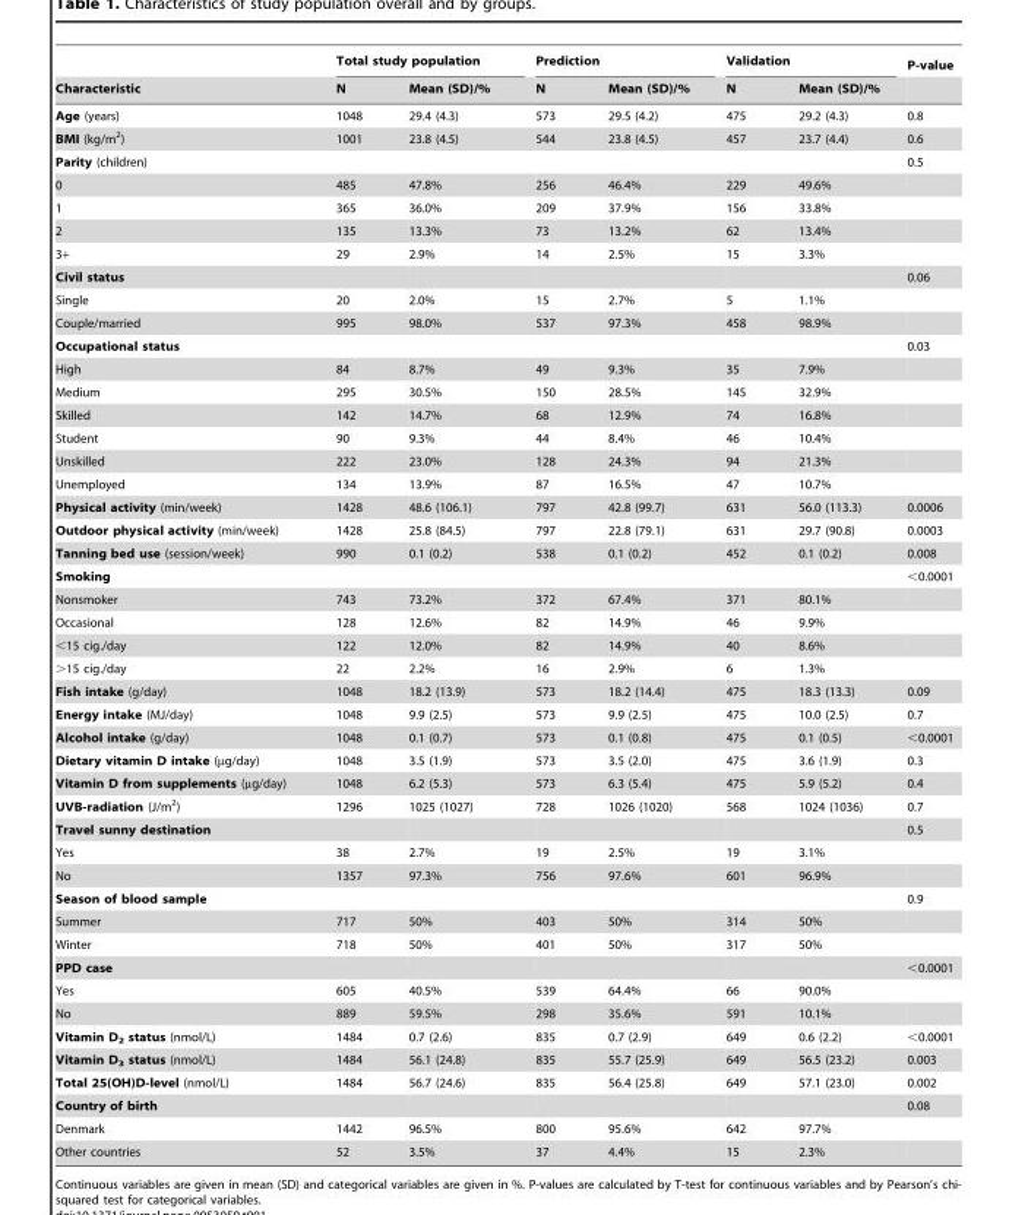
<table><thead><tr><td rowspan="2">Characteristic</td><td colspan="2">Total study population</td><td colspan="2">Prediction</td><td colspan="2">Validation</td><td rowspan="2">P-value</td></tr><tr><td>N</td><td>Mean (SD)/%</td><td>N</td><td>Mean (SD)/%</td><td>N</td><td>Mean (SD)/%</td></tr></thead><tbody><tr><td>Age (years)</td><td>1048</td><td>29.4 (4.3)</td><td>573</td><td>29.5 (4.2)</td><td>475</td><td>29.2 (4.3)</td><td>0.8</td></tr><tr><td>BMI (kg/m<sup>2</sup>)</td><td>1001</td><td>23.8 (4.5)</td><td>544</td><td>23.8 (4.5)</td><td>457</td><td>23.7 (4.4)</td><td>0.6</td></tr><tr><td>Parity (children)</td><td></td><td></td><td></td><td></td><td></td><td></td><td>0.5</td></tr><tr><td>0</td><td>485</td><td>47.8%</td><td>256</td><td>46.4%</td><td>229</td><td>49.6%</td><td></td></tr><tr><td>1</td><td>365</td><td>36.0%</td><td>209</td><td>37.9%</td><td>156</td><td>33.8%</td><td></td></tr><tr><td>2</td><td>135</td><td>13.3%</td><td>73</td><td>13.2%</td><td>62</td><td>13.4%</td><td></td></tr><tr><td>3+</td><td>29</td><td>2.9%</td><td>14</td><td>2.5%</td><td>15</td><td>3.3%</td><td></td></tr><tr><td>Civil status</td><td></td><td></td><td></td><td></td><td></td><td></td><td>0.06</td></tr><tr><td>Single</td><td>20</td><td>2.0%</td><td>15</td><td>2.7%</td><td>5</td><td>1.1%</td><td></td></tr><tr><td>Couple/married</td><td>995</td><td>98.0%</td><td>537</td><td>97.3%</td><td>458</td><td>98.9%</td><td></td></tr><tr><td>Occupational status</td><td></td><td></td><td></td><td></td><td></td><td></td><td>0.03</td></tr><tr><td>High</td><td>84</td><td>8.7%</td><td>49</td><td>9.3%</td><td>35</td><td>7.9%</td><td></td></tr><tr><td>Medium</td><td>295</td><td>30.5%</td><td>150</td><td>28.5%</td><td>145</td><td>32.9%</td><td></td></tr><tr><td>Skilled</td><td>142</td><td>14.7%</td><td>68</td><td>12.9%</td><td>74</td><td>16.8%</td><td></td></tr><tr><td>Student</td><td>90</td><td>9.3%</td><td>44</td><td>8.4%</td><td>46</td><td>10.4%</td><td></td></tr><tr><td>Unskilled</td><td>222</td><td>23.0%</td><td>128</td><td>24.3%</td><td>94</td><td>21.3%</td><td></td></tr><tr><td>Unemployed</td><td>134</td><td>13.9%</td><td>87</td><td>16.5%</td><td>47</td><td>10.7%</td><td></td></tr><tr><td>Physical activity (min/week)</td><td>1428</td><td>48.6 (106.1)</td><td>797</td><td>42.8 (99.7)</td><td>631</td><td>56.0 (113.3)</td><td>0.0006</td></tr><tr><td>Outdoor physical activity (min/week)</td><td>1428</td><td>25.8 (84.5)</td><td>797</td><td>22.8 (79.1)</td><td>631</td><td>29.7 (90.8)</td><td>0.0003</td></tr><tr><td>Tanning bed use (session/week)</td><td>990</td><td>0.1 (0.2)</td><td>538</td><td>0.1 (0.2)</td><td>452</td><td>0.1 (0.2)</td><td>0.008</td></tr><tr><td>Smoking</td><td></td><td></td><td></td><td></td><td></td><td></td><td>&lt;0.0001</td></tr><tr><td>Nonsmoker</td><td>743</td><td>73.2%</td><td>372</td><td>67.4%</td><td>371</td><td>80.1%</td><td></td></tr><tr><td>Occasional</td><td>128</td><td>12.6%</td><td>82</td><td>14.9%</td><td>46</td><td>9.9%</td><td></td></tr><tr><td>&lt;15 cig./day</td><td>122</td><td>12.0%</td><td>82</td><td>14.9%</td><td>40</td><td>8.6%</td><td></td></tr><tr><td>&gt;15 cig./day</td><td>22</td><td>2.2%</td><td>16</td><td>2.9%</td><td>6</td><td>1.3%</td><td></td></tr><tr><td>Fish intake (g/day)</td><td>1048</td><td>18.2 (13.9)</td><td>573</td><td>18.2 (14.4)</td><td>475</td><td>18.3 (13.3)</td><td>0.09</td></tr><tr><td>Energy intake (MJ/day)</td><td>1048</td><td>9.9 (2.5)</td><td>573</td><td>9.9 (2.5)</td><td>475</td><td>10.0 (2.5)</td><td>0.7</td></tr><tr><td>Alcohol intake (g/day)</td><td>1048</td><td>0.1 (0.7)</td><td>573</td><td>0.1 (0.8)</td><td>475</td><td>0.1 (0.5)</td><td>&lt;0.0001</td></tr><tr><td>Dietary vitamin D intake (µg/day)</td><td>1048</td><td>3.5 (1.9)</td><td>573</td><td>3.5 (2.0)</td><td>475</td><td>3.6 (1.9)</td><td>0.3</td></tr><tr><td>Vitamin D from supplements (µg/day)</td><td>1048</td><td>6.2 (5.3)</td><td>573</td><td>6.3 (5.4)</td><td>475</td><td>5.9 (5.2)</td><td>0.4</td></tr><tr><td>UVB-radiation (J/m<sup>2</sup>)</td><td>1296</td><td>1025 (1027)</td><td>728</td><td>1026 (1020)</td><td>568</td><td>1024 (1036)</td><td>0.7</td></tr><tr><td>Travel sunny destination</td><td></td><td></td><td></td><td></td><td></td><td></td><td>0.5</td></tr><tr><td>Yes</td><td>38</td><td>2.7%</td><td>19</td><td>2.5%</td><td>19</td><td>3.1%</td><td></td></tr><tr><td>No</td><td>1357</td><td>97.3%</td><td>756</td><td>97.6%</td><td>601</td><td>96.9%</td><td></td></tr><tr><td>Season of blood sample</td><td></td><td></td><td></td><td></td><td></td><td></td><td>0.9</td></tr><tr><td>Summer</td><td>717</td><td>50%</td><td>403</td><td>50%</td><td>314</td><td>50%</td><td></td></tr><tr><td>Winter</td><td>718</td><td>50%</td><td>401</td><td>50%</td><td>317</td><td>50%</td><td></td></tr><tr><td>PPD case</td><td></td><td></td><td></td><td></td><td></td><td></td><td>&lt;0.0001</td></tr><tr><td>Yes</td><td>605</td><td>40.5%</td><td>539</td><td>64.4%</td><td>66</td><td>90.0%</td><td></td></tr><tr><td>No</td><td>889</td><td>59.5%</td><td>298</td><td>35.6%</td><td>591</td><td>10.1%</td><td></td></tr><tr><td>Vitamin D<sub>2</sub> status (nmol/L)</td><td>1484</td><td>0.7 (2.6)</td><td>835</td><td>0.7 (2.9)</td><td>649</td><td>0.6 (2.2)</td><td>&lt;0.0001</td></tr><tr><td>Vitamin D<sub>3</sub> status (nmol/L)</td><td>1484</td><td>56.1 (24.8)</td><td>835</td><td>55.7 (25.9)</td><td>649</td><td>56.5 (23.2)</td><td>0.003</td></tr><tr><td>Total 25(OH)D-level (nmol/L)</td><td>1484</td><td>56.7 (24.6)</td><td>835</td><td>56.4 (25.8)</td><td>649</td><td>57.1 (23.0)</td><td>0.002</td></tr><tr><td>Country of birth</td><td></td><td></td><td></td><td></td><td></td><td></td><td>0.08</td></tr><tr><td>Denmark</td><td>1442</td><td>96.5%</td><td>800</td><td>95.6%</td><td>642</td><td>97.7%</td><td></td></tr><tr><td>Other countries</td><td>52</td><td>3.5%</td><td>37</td><td>4.4%</td><td>15</td><td>2.3%</td><td></td></tr></tbody></table>